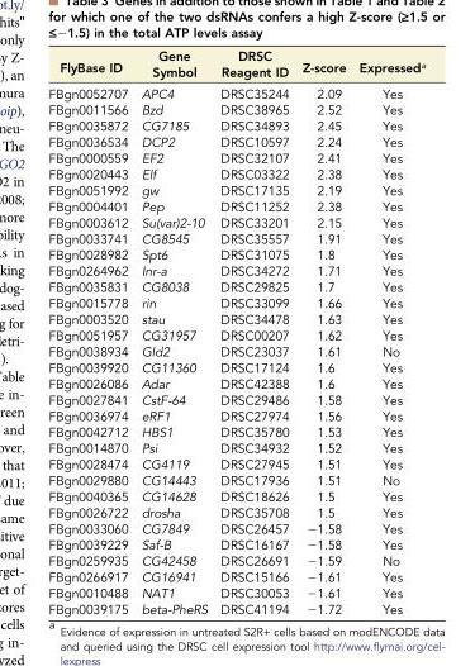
<table><thead><tr><td>FlyBase ID</td><td>Gene Symbol</td><td>DRSC Reagent ID</td><td>Z-score</td><td>Expressed<sup>a</sup></td></tr></thead><tbody><tr><td>FBgn0052707</td><td>APC4</td><td>DRSC35244</td><td>2.09</td><td>Yes</td></tr><tr><td>FBgn0011566</td><td>Bzd</td><td>DRSC38965</td><td>2.52</td><td>Yes</td></tr><tr><td>FBgn0035872</td><td>CG7185</td><td>DRSC34893</td><td>2.45</td><td>Yes</td></tr><tr><td>FBgn0036534</td><td>DCP2</td><td>DRSC10597</td><td>2.24</td><td>Yes</td></tr><tr><td>FBgn0000559</td><td>EF2</td><td>DRSC32107</td><td>2.41</td><td>Yes</td></tr><tr><td>FBgn0020443</td><td>Elf</td><td>DRSC03322</td><td>2.38</td><td>Yes</td></tr><tr><td>FBgn0051992</td><td>gw</td><td>DRSC17135</td><td>2.19</td><td>Yes</td></tr><tr><td>FBgn0004401</td><td>Pep</td><td>DRSC11252</td><td>2.38</td><td>Yes</td></tr><tr><td>FBgn0003612</td><td>Su(var)2-10</td><td>DRSC33201</td><td>2.15</td><td>Yes</td></tr><tr><td>FBgn0033741</td><td>CG8545</td><td>DRSC35557</td><td>1.91</td><td>Yes</td></tr><tr><td>FBgn0028982</td><td>Spt6</td><td>DRSC31075</td><td>1.8</td><td>Yes</td></tr><tr><td>FBgn0264962</td><td>Inr-a</td><td>DRSC34272</td><td>1.71</td><td>Yes</td></tr><tr><td>FBgn0035831</td><td>CG8038</td><td>DRSC29825</td><td>1.7</td><td>Yes</td></tr><tr><td>FBgn0015778</td><td>rin</td><td>DRSC33099</td><td>1.66</td><td>Yes</td></tr><tr><td>FBgn0003520</td><td>stau</td><td>DRSC34478</td><td>1.63</td><td>Yes</td></tr><tr><td>FBgn0051957</td><td>CG31957</td><td>DRSC00207</td><td>1.62</td><td>Yes</td></tr><tr><td>FBgn0038934</td><td>Gld2</td><td>DRSC23037</td><td>1.61</td><td>No</td></tr><tr><td>FBgn0039920</td><td>CG11360</td><td>DRSC17124</td><td>1.6</td><td>Yes</td></tr><tr><td>FBgn0026086</td><td>Adar</td><td>DRSC42388</td><td>1.6</td><td>Yes</td></tr><tr><td>FBgn0027841</td><td>CstF-64</td><td>DRSC29486</td><td>1.58</td><td>Yes</td></tr><tr><td>FBgn0036974</td><td>eRF1</td><td>DRSC27974</td><td>1.56</td><td>Yes</td></tr><tr><td>FBgn0042712</td><td>HBS1</td><td>DRSC35780</td><td>1.53</td><td>Yes</td></tr><tr><td>FBgn0014870</td><td>Psi</td><td>DRSC34932</td><td>1.52</td><td>Yes</td></tr><tr><td>FBgn0028474</td><td>CG4119</td><td>DRSC27945</td><td>1.51</td><td>Yes</td></tr><tr><td>FBgn0029880</td><td>CG14443</td><td>DRSC17936</td><td>1.51</td><td>No</td></tr><tr><td>FBgn0040365</td><td>CG14628</td><td>DRSC18626</td><td>1.5</td><td>Yes</td></tr><tr><td>FBgn0026722</td><td>drosha</td><td>DRSC35708</td><td>1.5</td><td>Yes</td></tr><tr><td>FBgn0033060</td><td>CG7849</td><td>DRSC26457</td><td>−1.58</td><td>Yes</td></tr><tr><td>FBgn0039229</td><td>Saf-B</td><td>DRSC16167</td><td>−1.58</td><td>Yes</td></tr><tr><td>FBgn0259935</td><td>CG42458</td><td>DRSC26691</td><td>−1.59</td><td>No</td></tr><tr><td>FBgn0266917</td><td>CG16941</td><td>DRSC15166</td><td>−1.61</td><td>Yes</td></tr><tr><td>FBgn0010488</td><td>NAT1</td><td>DRSC30053</td><td>−1.61</td><td>Yes</td></tr><tr><td>FBgn0039175</td><td>beta-PheRS</td><td>DRSC41194</td><td>−1.72</td><td>Yes</td></tr></tbody></table>